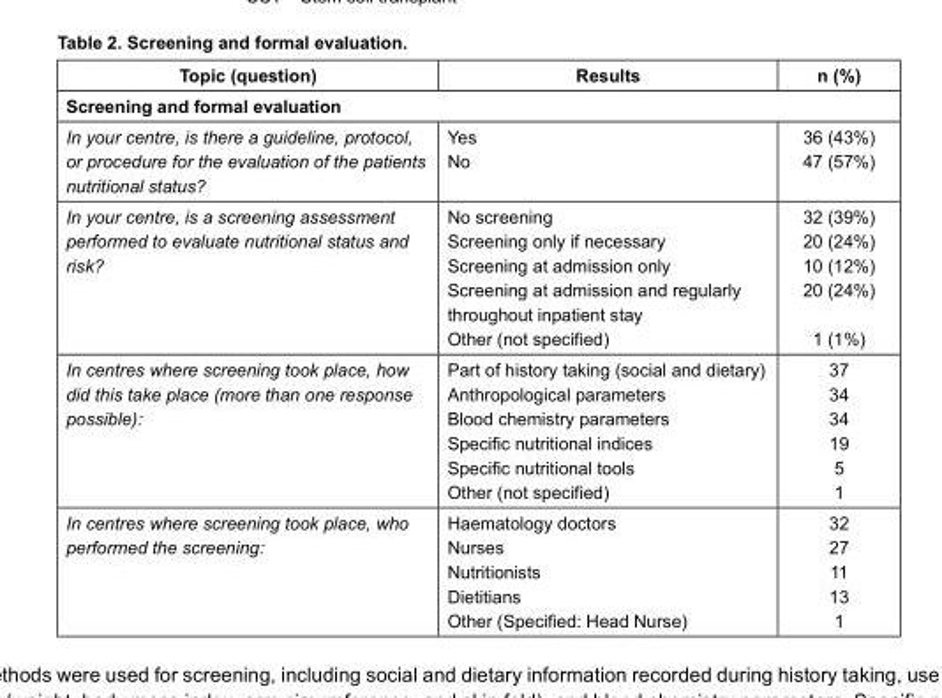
<table><thead><tr><td>Topic (question)</td><td>Results</td><td>n (%)</td></tr></thead><tbody><tr><td colspan="3">Screening and formal evaluation</td></tr><tr><td>In your centre, is there a guideline, protocol, or procedure for the evaluation of the patients nutritional status?</td><td>Yes No</td><td>36 (43%) 47 (57%)</td></tr><tr><td>In your centre, is a screening assessment performed to evaluate nutritional status and risk?</td><td>No screening Screening only if necessary Screening at admission only Screening at admission and regularly throughout inpatient stay Other (not specified)</td><td>32 (39%) 20 (24%) 10 (12%) 20 (24%) 1 (1%)</td></tr><tr><td>In centres where screening took place, how did this take place (more than one response possible):</td><td>Part of history taking (social and dietary) Anthropological parameters Blood chemistry parameters Specific nutritional indices Specific nutritional tools Other (not specified)</td><td>37 34 34 19 5 1</td></tr><tr><td>In centres where screening took place, who performed the screening:</td><td>Haematology doctors Nurses Nutritionists Dietitians Other (Specified: Head Nurse)</td><td>32 27 11 13 1</td></tr></tbody></table>